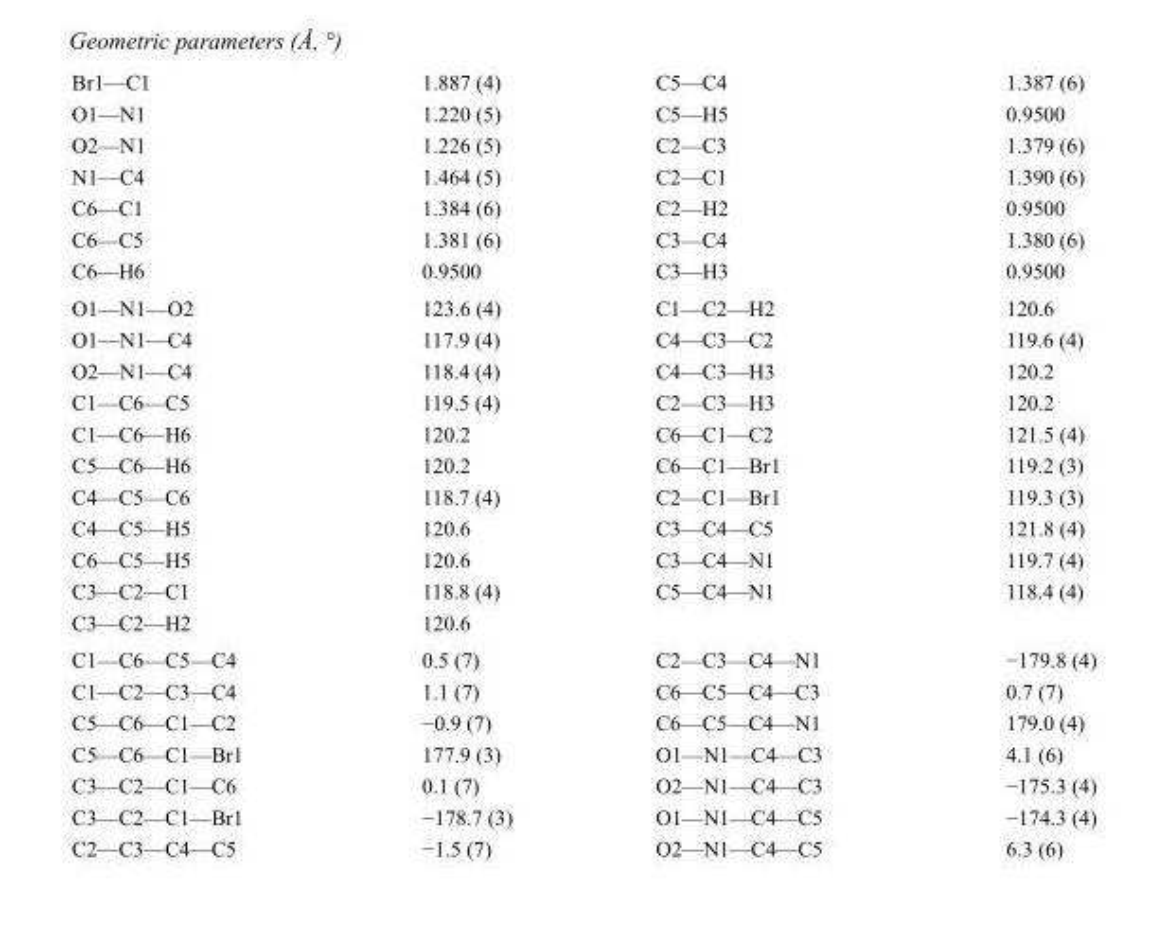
<table><tbody><tr><td>Br1—C1</td><td>1.887 (4)</td><td>C5—C4</td><td>1.387 (6)</td></tr><tr><td>O1—N1</td><td>1.220 (5)</td><td>C5—H5</td><td>0.9500</td></tr><tr><td>O2—N1</td><td>1.226 (5)</td><td>C2—C3</td><td>1.379 (6)</td></tr><tr><td>N1—C4</td><td>1.464 (5)</td><td>C2—C1</td><td>1.390 (6)</td></tr><tr><td>C6—C1</td><td>1.384 (6)</td><td>C2—H2</td><td>0.9500</td></tr><tr><td>C6—C5</td><td>1.381 (6)</td><td>C3—C4</td><td>1.380 (6)</td></tr><tr><td>C6—H6</td><td>0.9500</td><td>C3—H3</td><td>0.9500</td></tr><tr><td>O1—N1—O2</td><td>123.6 (4)</td><td>C1—C2—H2</td><td>120.6</td></tr><tr><td>O1—N1—C4</td><td>117.9 (4)</td><td>C4—C3—C2</td><td>119.6 (4)</td></tr><tr><td>O2—N1—C4</td><td>118.4 (4)</td><td>C4—C3—H3</td><td>120.2</td></tr><tr><td>C1—C6—C5</td><td>119.5 (4)</td><td>C2—C3—H3</td><td>120.2</td></tr><tr><td>C1—C6—H6</td><td>120.2</td><td>C6—C1—C2</td><td>121.5 (4)</td></tr><tr><td>C5—C6—H6</td><td>120.2</td><td>C6—C1—Br1</td><td>119.2 (3)</td></tr><tr><td>C4—C5—C6</td><td>118.7 (4)</td><td>C2—C1—Br1</td><td>119.3 (3)</td></tr><tr><td>C4—C5—H5</td><td>120.6</td><td>C3—C4—C5</td><td>121.8 (4)</td></tr><tr><td>C6—C5—H5</td><td>120.6</td><td>C3—C4—N1</td><td>119.7 (4)</td></tr><tr><td>C3—C2—C1</td><td>118.8 (4)</td><td>C5—C4—N1</td><td>118.4 (4)</td></tr><tr><td>C3—C2—H2</td><td>120.6</td><td></td><td></td></tr><tr><td>C1—C6—C5—C4</td><td>0.5 (7)</td><td>C2—C3—C4—N1</td><td>−179.8 (4)</td></tr><tr><td>C1—C2—C3—C4</td><td>1.1 (7)</td><td>C6—C5—C4—C3</td><td>0.7 (7)</td></tr><tr><td>C5—C6—C1—C2</td><td>−0.9 (7)</td><td>C6—C5—C4—N1</td><td>179.0 (4)</td></tr><tr><td>C5—C6—C1—Br1</td><td>177.9 (3)</td><td>O1—N1—C4—C3</td><td>4.1 (6)</td></tr><tr><td>C3—C2—C1—C6</td><td>0.1 (7)</td><td>O2—N1—C4—C3</td><td>−175.3 (4)</td></tr><tr><td>C3—C2—C1—Br1</td><td>−178.7 (3)</td><td>O1—N1—C4—C5</td><td>−174.3 (4)</td></tr><tr><td>C2—C3—C4—C5</td><td>−1.5 (7)</td><td>O2—N1—C4—C5</td><td>6.3 (6)</td></tr></tbody></table>